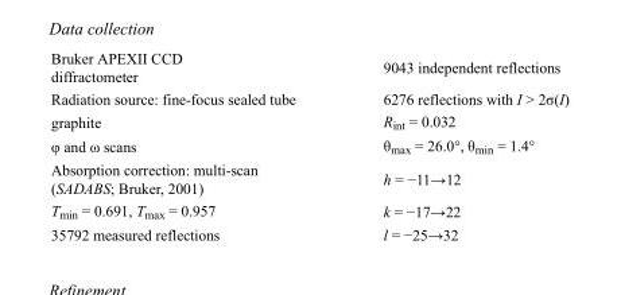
<table><tbody><tr><td>Bruker APEXII CCD diffractometer</td><td>9043 independent reflections</td></tr><tr><td>Radiation source: fine-focus sealed tube</td><td>6276 reflections with I &gt; 2σ(I)</td></tr><tr><td>graphite</td><td>R<sub>int</sub> = 0.032</td></tr><tr><td>φ and ω scans</td><td>θ<sub>max</sub> = 26.0°, θ<sub>min</sub> = 1.4°</td></tr><tr><td>Absorption correction: multi-scan (SADABS; Bruker, 2001)</td><td>h = −11→12</td></tr><tr><td>T<sub>min</sub> = 0.691, T<sub>max</sub> = 0.957</td><td>k = −17→22</td></tr><tr><td>35792 measured reflections</td><td>l = −25→32</td></tr></tbody></table>